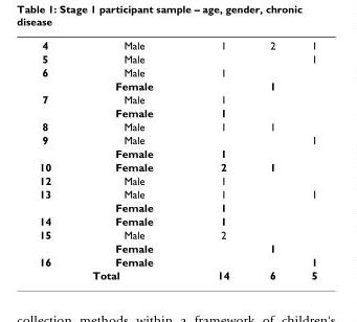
<table><tbody><tr><td>4</td><td>Male</td><td>1</td><td>2</td><td>1</td></tr><tr><td>5</td><td>Male</td><td></td><td></td><td>1</td></tr><tr><td rowspan="2">6</td><td>Male</td><td>1</td><td></td><td></td></tr><tr><td>Female</td><td></td><td>1</td><td></td></tr><tr><td rowspan="2">7</td><td>Male</td><td>1</td><td></td><td></td></tr><tr><td>Female</td><td>1</td><td></td><td></td></tr><tr><td>8</td><td>Male</td><td>1</td><td>1</td><td></td></tr><tr><td rowspan="2">9</td><td>Male</td><td></td><td></td><td>1</td></tr><tr><td>Female</td><td>1</td><td></td><td></td></tr><tr><td>10</td><td>Female</td><td>2</td><td>1</td><td></td></tr><tr><td>12</td><td>Male</td><td>1</td><td></td><td></td></tr><tr><td rowspan="2">13</td><td>Male</td><td>1</td><td></td><td>1</td></tr><tr><td>Female</td><td>1</td><td></td><td></td></tr><tr><td>14</td><td>Female</td><td>1</td><td></td><td></td></tr><tr><td rowspan="2">15</td><td>Male</td><td>2</td><td></td><td></td></tr><tr><td>Female</td><td></td><td>1</td><td></td></tr><tr><td>16</td><td>Female</td><td></td><td></td><td>1</td></tr><tr><td colspan="2">Total</td><td>14</td><td>6</td><td>5</td></tr></tbody></table>